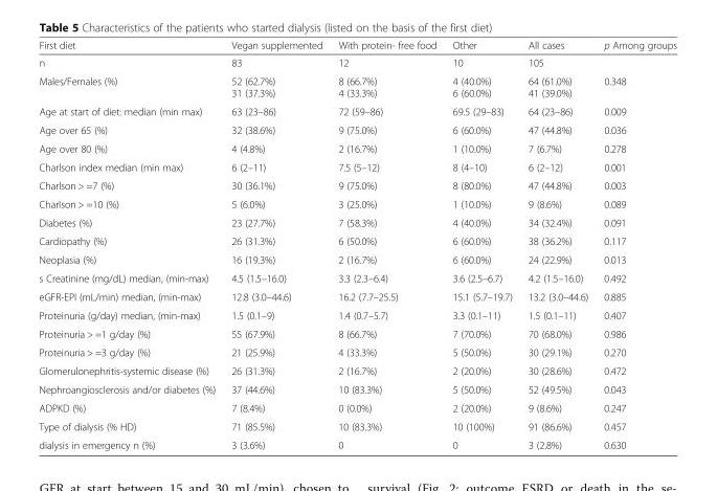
<table><thead><tr><td>First diet</td><td>Vegan supplemented</td><td>With protein- free food</td><td>Other</td><td>All cases</td><td>p Among groups</td></tr></thead><tbody><tr><td>n</td><td>83</td><td>12</td><td>10</td><td>105</td><td></td></tr><tr><td>Males/Females (%)</td><td>52 (62.7%) 31 (37.3%)</td><td>8 (66.7%) 4 (33.3%)</td><td>4 (40.0%) 6 (60.0%)</td><td>64 (61.0%) 41 (39.0%)</td><td>0.348</td></tr><tr><td>Age at start of diet: median (min max)</td><td>63 (23–86)</td><td>72 (59–86)</td><td>69.5 (29–83)</td><td>64 (23–86)</td><td>0.009</td></tr><tr><td>Age over 65 (%)</td><td>32 (38.6%)</td><td>9 (75.0%)</td><td>6 (60.0%)</td><td>47 (44.8%)</td><td>0.036</td></tr><tr><td>Age over 80 (%)</td><td>4 (4.8%)</td><td>2 (16.7%)</td><td>1 (10.0%)</td><td>7 (6.7%)</td><td>0.278</td></tr><tr><td>Charlson index median (min max)</td><td>6 (2–11)</td><td>7.5 (5–12)</td><td>8 (4–10)</td><td>6 (2–12)</td><td>0.001</td></tr><tr><td>Charlson &gt; =7 (%)</td><td>30 (36.1%)</td><td>9 (75.0%)</td><td>8 (80.0%)</td><td>47 (44.8%)</td><td>0.003</td></tr><tr><td>Charlson &gt; =10 (%)</td><td>5 (6.0%)</td><td>3 (25.0%)</td><td>1 (10.0%)</td><td>9 (8.6%)</td><td>0.089</td></tr><tr><td>Diabetes (%)</td><td>23 (27.7%)</td><td>7 (58.3%)</td><td>4 (40.0%)</td><td>34 (32.4%)</td><td>0.091</td></tr><tr><td>Cardiopathy (%)</td><td>26 (31.3%)</td><td>6 (50.0%)</td><td>6 (60.0%)</td><td>38 (36.2%)</td><td>0.117</td></tr><tr><td>Neoplasia (%)</td><td>16 (19.3%)</td><td>2 (16.7%)</td><td>6 (60.0%)</td><td>24 (22.9%)</td><td>0.013</td></tr><tr><td>s Creatinine (mg/dL) median, (min-max)</td><td>4.5 (1.5–16.0)</td><td>3.3 (2.3–6.4)</td><td>3.6 (2.5–6.7)</td><td>4.2 (1.5–16.0)</td><td>0.492</td></tr><tr><td>eGFR-EPI (mL/min) median, (min-max)</td><td>12.8 (3.0–44.6)</td><td>16.2 (7.7–25.5)</td><td>15.1 (5.7–19.7)</td><td>13.2 (3.0–44.6)</td><td>0.885</td></tr><tr><td>Proteinuria (g/day) median, (min-max)</td><td>1.5 (0.1–9)</td><td>1.4 (0.7–5.7)</td><td>3.3 (0.1–11)</td><td>1.5 (0.1–11)</td><td>0.407</td></tr><tr><td>Proteinuria &gt; =1 g/day (%)</td><td>55 (67.9%)</td><td>8 (66.7%)</td><td>7 (70.0%)</td><td>70 (68.0%)</td><td>0.986</td></tr><tr><td>Proteinuria &gt; =3 g/day (%)</td><td>21 (25.9%)</td><td>4 (33.3%)</td><td>5 (50.0%)</td><td>30 (29.1%)</td><td>0.270</td></tr><tr><td>Glomerulonephritis-systemic disease (%)</td><td>26 (31.3%)</td><td>2 (16.7%)</td><td>2 (20.0%)</td><td>30 (28.6%)</td><td>0.472</td></tr><tr><td>Nephroangiosclerosis and/or diabetes (%)</td><td>37 (44.6%)</td><td>10 (83.3%)</td><td>5 (50.0%)</td><td>52 (49.5%)</td><td>0.043</td></tr><tr><td>ADPKD (%)</td><td>7 (8.4%)</td><td>0 (0.0%)</td><td>2 (20.0%)</td><td>9 (8.6%)</td><td>0.247</td></tr><tr><td>Type of dialysis (% HD)</td><td>71 (85.5%)</td><td>10 (83.3%)</td><td>10 (100%)</td><td>91 (86.6%)</td><td>0.457</td></tr><tr><td>dialysis in emergency n (%)</td><td>3 (3.6%)</td><td>0</td><td>0</td><td>3 (2.8%)</td><td>0.630</td></tr></tbody></table>